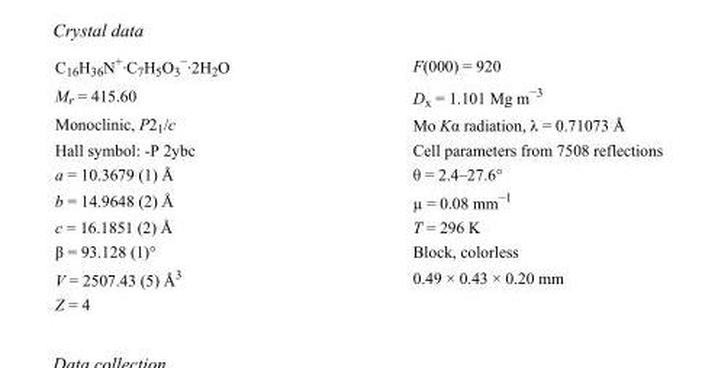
<table><tbody><tr><td>C<sub>16</sub>H<sub>36</sub>N<sup>+</sup>·C<sub>7</sub>H<sub>5</sub>O<sub>3</sub> <sup>−</sup>·2H<sub>2</sub>O</td><td>F(000) = 920</td></tr><tr><td>M<sub>r</sub> = 415.60</td><td>D<sub>x</sub> = 1.101 Mg m<sup>−3</sup></td></tr><tr><td>Monoclinic, P2<sub>1</sub>/c</td><td>Mo Kα radiation, λ = 0.71073 Å</td></tr><tr><td>Hall symbol: -P 2ybc</td><td>Cell parameters from 7508 reflections</td></tr><tr><td>a = 10.3679 (1) Å</td><td>θ = 2.4–27.6°</td></tr><tr><td>b = 14.9648 (2) Å</td><td>µ = 0.08 mm<sup>−1</sup></td></tr><tr><td>c = 16.1851 (2) Å</td><td>T = 296 K</td></tr><tr><td>β = 93.128 (1)°</td><td>Block, colorless</td></tr><tr><td>V = 2507.43 (5) Å<sup>3</sup></td><td>0.49 × 0.43 × 0.20 mm</td></tr><tr><td>Z = 4</td><td></td></tr></tbody></table>